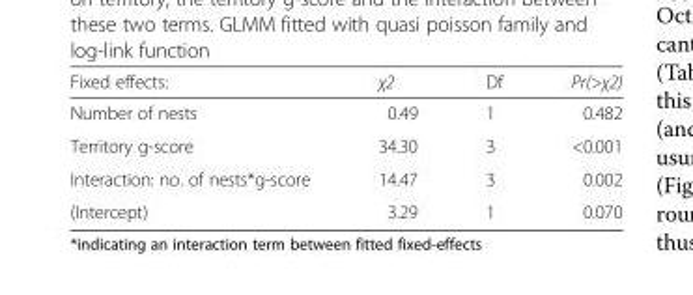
<table><thead><tr><td>Fixed effects:</td><td>χ2</td><td>Df</td><td>Pr(&gt;χ2)</td></tr></thead><tbody><tr><td>Number of nests</td><td>0.49</td><td>1</td><td>0.482</td></tr><tr><td>Territory g-score</td><td>34.30</td><td>3</td><td>&lt;0.001</td></tr><tr><td>Interaction: no. of nests*g-score</td><td>14.47</td><td>3</td><td>0.002</td></tr><tr><td>(Intercept)</td><td>3.29</td><td>1</td><td>0.070</td></tr></tbody></table>